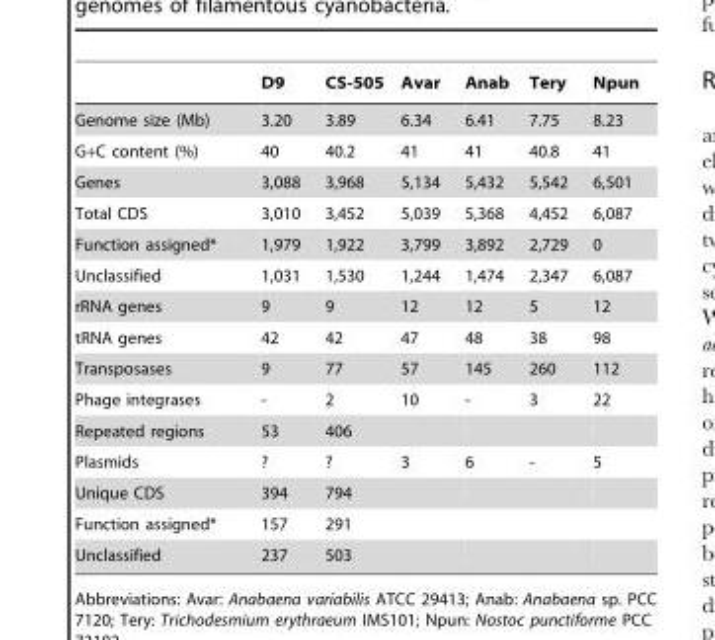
<table><thead><tr><td></td><td>D9</td><td>CS-505</td><td>Avar</td><td>Anab</td><td>Tery</td><td>Npun</td></tr></thead><tbody><tr><td>Genome size (Mb)</td><td>3.20</td><td>3.89</td><td>6.34</td><td>6.41</td><td>7.75</td><td>8.23</td></tr><tr><td>G+C content (%)</td><td>40</td><td>40.2</td><td>41</td><td>41</td><td>40.8</td><td>41</td></tr><tr><td>Genes</td><td>3,088</td><td>3,968</td><td>5,134</td><td>5,432</td><td>5,542</td><td>6,501</td></tr><tr><td>Total CDS</td><td>3,010</td><td>3,452</td><td>5,039</td><td>5,368</td><td>4,452</td><td>6,087</td></tr><tr><td>Function assigned*</td><td>1,979</td><td>1,922</td><td>3,799</td><td>3,892</td><td>2,729</td><td>0</td></tr><tr><td>Unclassified</td><td>1,031</td><td>1,530</td><td>1,244</td><td>1,474</td><td>2,347</td><td>6,087</td></tr><tr><td>rRNA genes</td><td>9</td><td>9</td><td>12</td><td>12</td><td>5</td><td>12</td></tr><tr><td>tRNA genes</td><td>42</td><td>42</td><td>47</td><td>48</td><td>38</td><td>98</td></tr><tr><td>Transposases</td><td>9</td><td>77</td><td>57</td><td>145</td><td>260</td><td>112</td></tr><tr><td>Phage integrases</td><td>-</td><td>2</td><td>10</td><td>-</td><td>3</td><td>22</td></tr><tr><td>Repeated regions</td><td>53</td><td>406</td><td></td><td></td><td></td><td></td></tr><tr><td>Plasmids</td><td>?</td><td>?</td><td>3</td><td>6</td><td>-</td><td>5</td></tr><tr><td>Unique CDS</td><td>394</td><td>794</td><td></td><td></td><td></td><td></td></tr><tr><td>Function assigned*</td><td>157</td><td>291</td><td></td><td></td><td></td><td></td></tr><tr><td>Unclassified</td><td>237</td><td>503</td><td></td><td></td><td></td><td></td></tr></tbody></table>